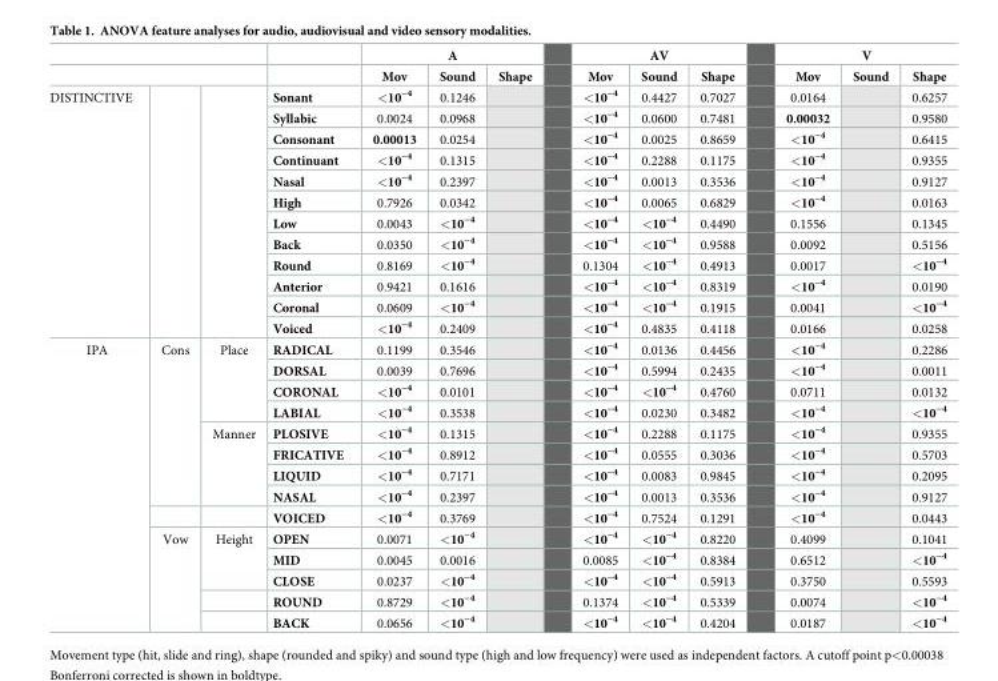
<table><thead><tr><td rowspan="2"></td><td rowspan="2"></td><td rowspan="2"></td><td rowspan="2"></td><td colspan="3">A</td><td colspan="3">AV</td><td colspan="3">V</td></tr><tr><td>Mov</td><td>Sound</td><td>Shape</td><td>Mov</td><td>Sound</td><td>Shape</td><td>Mov</td><td>Sound</td><td>Shape</td></tr></thead><tbody><tr><td rowspan="12">DISTINCTIVE</td><td rowspan="12"></td><td rowspan="12"></td><td>Sonant</td><td>&lt;10<sup>−4</sup></td><td>0.1246</td><td></td><td>&lt;10<sup>−4</sup></td><td>0.4427</td><td>0.7027</td><td>0.0164</td><td></td><td>0.6257</td></tr><tr><td>Syllabic</td><td>0.0024</td><td>0.0968</td><td></td><td>&lt;10<sup>−4</sup></td><td>0.0600</td><td>0.7481</td><td>0.00032</td><td></td><td>0.9580</td></tr><tr><td>Consonant</td><td>0.00013</td><td>0.0254</td><td></td><td>&lt;10<sup>−4</sup></td><td>0.0025</td><td>0.8659</td><td>&lt;10<sup>−4</sup></td><td></td><td>0.6415</td></tr><tr><td>Continuant</td><td>&lt;10<sup>−4</sup></td><td>0.1315</td><td></td><td>&lt;10<sup>−4</sup></td><td>0.2288</td><td>0.1175</td><td>&lt;10<sup>−4</sup></td><td></td><td>0.9355</td></tr><tr><td>Nasal</td><td>&lt;10<sup>−4</sup></td><td>0.2397</td><td></td><td>&lt;10<sup>−4</sup></td><td>0.0013</td><td>0.3536</td><td>&lt;10<sup>−4</sup></td><td></td><td>0.9127</td></tr><tr><td>High</td><td>0.7926</td><td>0.0342</td><td></td><td>&lt;10<sup>−4</sup></td><td>0.0065</td><td>0.6829</td><td>&lt;10<sup>−4</sup></td><td></td><td>0.0163</td></tr><tr><td>Low</td><td>0.0043</td><td>&lt;10<sup>−4</sup></td><td></td><td>&lt;10<sup>−4</sup></td><td>&lt;10<sup>−4</sup></td><td>0.4490</td><td>0.1556</td><td></td><td>0.1345</td></tr><tr><td>Back</td><td>0.0350</td><td>&lt;10<sup>−4</sup></td><td></td><td>&lt;10<sup>−4</sup></td><td>&lt;10<sup>−4</sup></td><td>0.9588</td><td>0.0092</td><td></td><td>0.5156</td></tr><tr><td>Round</td><td>0.8169</td><td>&lt;10<sup>−4</sup></td><td></td><td>0.1304</td><td>&lt;10<sup>−4</sup></td><td>0.4913</td><td>0.0017</td><td></td><td>&lt;10<sup>−4</sup></td></tr><tr><td>Anterior</td><td>0.9421</td><td>0.1616</td><td></td><td>&lt;10<sup>−4</sup></td><td>&lt;10<sup>−4</sup></td><td>0.8319</td><td>&lt;10<sup>−4</sup></td><td></td><td>0.0190</td></tr><tr><td>Coronal</td><td>0.0609</td><td>&lt;10<sup>−4</sup></td><td></td><td>&lt;10<sup>−4</sup></td><td>&lt;10<sup>−4</sup></td><td>0.1915</td><td>0.0041</td><td></td><td>&lt;10<sup>−4</sup></td></tr><tr><td>Voiced</td><td>&lt;10<sup>−4</sup></td><td>0.2409</td><td></td><td>&lt;10<sup>−4</sup></td><td>0.4835</td><td>0.4118</td><td>0.0166</td><td></td><td>0.0258</td></tr><tr><td rowspan="14">IPA</td><td rowspan="8">Cons</td><td rowspan="4">Place</td><td>RADICAL</td><td>0.1199</td><td>0.3546</td><td></td><td>&lt;10<sup>−4</sup></td><td>0.0136</td><td>0.4456</td><td>&lt;10<sup>−4</sup></td><td></td><td>0.2286</td></tr><tr><td>DORSAL</td><td>0.0039</td><td>0.7696</td><td></td><td>&lt;10<sup>−4</sup></td><td>0.5994</td><td>0.2435</td><td>&lt;10<sup>−4</sup></td><td></td><td>0.0011</td></tr><tr><td>CORONAL</td><td>&lt;10<sup>−4</sup></td><td>0.0101</td><td></td><td>&lt;10<sup>−4</sup></td><td>&lt;10<sup>−4</sup></td><td>0.4760</td><td>0.0711</td><td></td><td>0.0132</td></tr><tr><td>LABIAL</td><td>&lt;10<sup>−4</sup></td><td>0.3538</td><td></td><td>&lt;10<sup>−4</sup></td><td>0.0230</td><td>0.3482</td><td>&lt;10<sup>−4</sup></td><td></td><td>&lt;10<sup>−4</sup></td></tr><tr><td rowspan="4">Manner</td><td>PLOSIVE</td><td>&lt;10<sup>−4</sup></td><td>0.1315</td><td></td><td>&lt;10<sup>−4</sup></td><td>0.2288</td><td>0.1175</td><td>&lt;10<sup>−4</sup></td><td></td><td>0.9355</td></tr><tr><td>FRICATIVE</td><td>&lt;10<sup>−4</sup></td><td>0.8912</td><td></td><td>&lt;10<sup>−4</sup></td><td>0.0555</td><td>0.3036</td><td>&lt;10<sup>−4</sup></td><td></td><td>0.5703</td></tr><tr><td>LIQUID</td><td>&lt;10<sup>−4</sup></td><td>0.7171</td><td></td><td>&lt;10<sup>−4</sup></td><td>0.0083</td><td>0.9845</td><td>&lt;10<sup>−4</sup></td><td></td><td>0.2095</td></tr><tr><td>NASAL</td><td>&lt;10<sup>−4</sup></td><td>0.2397</td><td></td><td>&lt;10<sup>−4</sup></td><td>0.0013</td><td>0.3536</td><td>&lt;10<sup>−4</sup></td><td></td><td>0.9127</td></tr><tr><td></td><td></td><td>VOICED</td><td>&lt;10<sup>−4</sup></td><td>0.3769</td><td></td><td>&lt;10<sup>−4</sup></td><td>0.7524</td><td>0.1291</td><td>&lt;10<sup>−4</sup></td><td></td><td>0.0443</td></tr><tr><td rowspan="5">Vow</td><td rowspan="3">Height</td><td>OPEN</td><td>0.0071</td><td>&lt;10<sup>−4</sup></td><td></td><td>&lt;10<sup>−4</sup></td><td>&lt;10<sup>−4</sup></td><td>0.8220</td><td>0.4099</td><td></td><td>0.1041</td></tr><tr><td>MID</td><td>0.0045</td><td>0.0016</td><td></td><td>0.0085</td><td>&lt;10<sup>−4</sup></td><td>0.8384</td><td>0.6512</td><td></td><td>&lt;10<sup>−4</sup></td></tr><tr><td>CLOSE</td><td>0.0237</td><td>&lt;10<sup>−4</sup></td><td></td><td>&lt;10<sup>−4</sup></td><td>&lt;10<sup>−4</sup></td><td>0.5913</td><td>0.3750</td><td></td><td>0.5593</td></tr><tr><td></td><td>ROUND</td><td>0.8729</td><td>&lt;10<sup>−4</sup></td><td></td><td>0.1374</td><td>&lt;10<sup>−4</sup></td><td>0.5339</td><td>0.0074</td><td></td><td>&lt;10<sup>−4</sup></td></tr><tr><td></td><td>BACK</td><td>0.0656</td><td>&lt;10<sup>−4</sup></td><td></td><td>&lt;10<sup>−4</sup></td><td>&lt;10<sup>−4</sup></td><td>0.4204</td><td>0.0187</td><td></td><td>&lt;10<sup>−4</sup></td></tr></tbody></table>